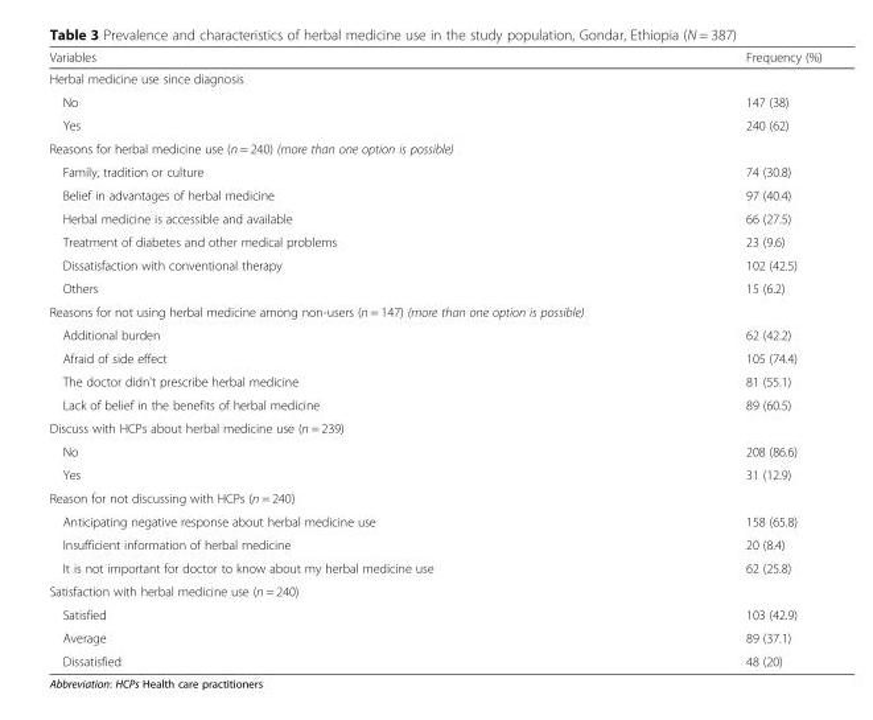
<table><thead><tr><td>Variables</td><td>Frequency (%)</td></tr></thead><tbody><tr><td colspan="2">Herbal medicine use since diagnosis</td></tr><tr><td>No</td><td>147 (38)</td></tr><tr><td>Yes</td><td>240 (62)</td></tr><tr><td colspan="2">Reasons for herbal medicine use (n = 240) (more than one option is possible)</td></tr><tr><td>Family, tradition or culture</td><td>74 (30.8)</td></tr><tr><td>Belief in advantages of herbal medicine</td><td>97 (40.4)</td></tr><tr><td>Herbal medicine is accessible and available</td><td>66 (27.5)</td></tr><tr><td>Treatment of diabetes and other medical problems</td><td>23 (9.6)</td></tr><tr><td>Dissatisfaction with conventional therapy</td><td>102 (42.5)</td></tr><tr><td>Others</td><td>15 (6.2)</td></tr><tr><td colspan="2">Reasons for not using herbal medicine among non-users (n = 147) (more than one option is possible)</td></tr><tr><td>Additional burden</td><td>62 (42.2)</td></tr><tr><td>Afraid of side effect</td><td>105 (74.4)</td></tr><tr><td>The doctor didn’t prescribe herbal medicine</td><td>81 (55.1)</td></tr><tr><td>Lack of belief in the benefits of herbal medicine</td><td>89 (60.5)</td></tr><tr><td colspan="2">Discuss with HCPs about herbal medicine use (n = 239)</td></tr><tr><td>No</td><td>208 (86.6)</td></tr><tr><td>Yes</td><td>31 (12.9)</td></tr><tr><td colspan="2">Reason for not discussing with HCPs (n = 240)</td></tr><tr><td>Anticipating negative response about herbal medicine use</td><td>158 (65.8)</td></tr><tr><td>Insufficient information of herbal medicine</td><td>20 (8.4)</td></tr><tr><td>It is not important for doctor to know about my herbal medicine use</td><td>62 (25.8)</td></tr><tr><td colspan="2">Satisfaction with herbal medicine use (n = 240)</td></tr><tr><td>Satisfied</td><td>103 (42.9)</td></tr><tr><td>Average</td><td>89 (37.1)</td></tr><tr><td>Dissatisfied</td><td>48 (20)</td></tr></tbody></table>